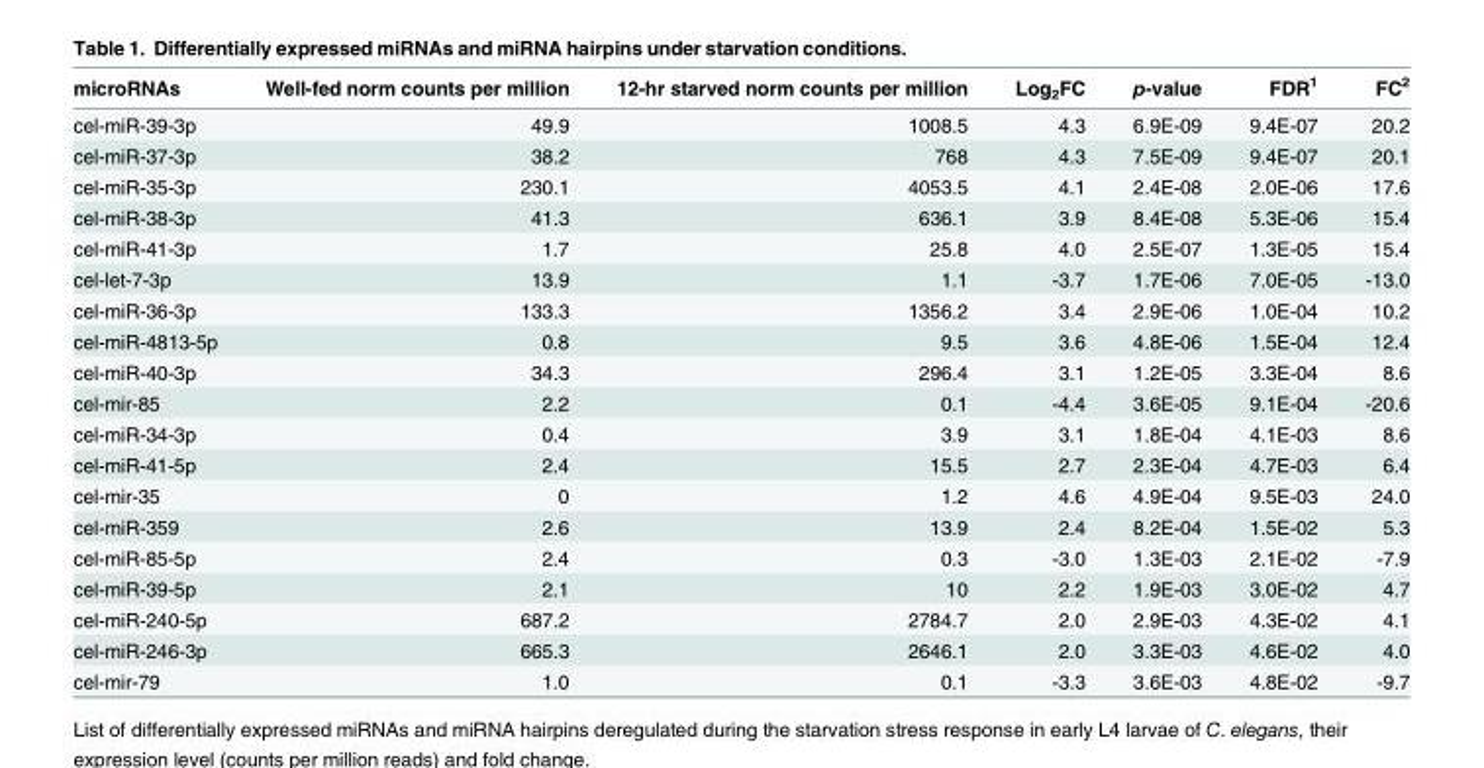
<table><thead><tr><td>microRNAs</td><td>Well-fed norm counts per million</td><td>12-hr starved norm counts per million</td><td>Log<sub>2</sub>FC</td><td>p-value</td><td>FDR<sup>1</sup></td><td>FC<sup>2</sup></td></tr></thead><tbody><tr><td>cel-miR-39-3p</td><td>49.9</td><td>1008.5</td><td>4.3</td><td>6.9E-09</td><td>9.4E-07</td><td>20.2</td></tr><tr><td>cel-miR-37-3p</td><td>38.2</td><td>768</td><td>4.3</td><td>7.5E-09</td><td>9.4E-07</td><td>20.1</td></tr><tr><td>cel-miR-35-3p</td><td>230.1</td><td>4053.5</td><td>4.1</td><td>2.4E-08</td><td>2.0E-06</td><td>17.6</td></tr><tr><td>cel-miR-38-3p</td><td>41.3</td><td>636.1</td><td>3.9</td><td>8.4E-08</td><td>5.3E-06</td><td>15.4</td></tr><tr><td>cel-miR-41-3p</td><td>1.7</td><td>25.8</td><td>4.0</td><td>2.5E-07</td><td>1.3E-05</td><td>15.4</td></tr><tr><td>cel-let-7-3p</td><td>13.9</td><td>1.1</td><td>-3.7</td><td>1.7E-06</td><td>7.0E-05</td><td>-13.0</td></tr><tr><td>cel-miR-36-3p</td><td>133.3</td><td>1356.2</td><td>3.4</td><td>2.9E-06</td><td>1.0E-04</td><td>10.2</td></tr><tr><td>cel-miR-4813-5p</td><td>0.8</td><td>9.5</td><td>3.6</td><td>4.8E-06</td><td>1.5E-04</td><td>12.4</td></tr><tr><td>cel-miR-40-3p</td><td>34.3</td><td>296.4</td><td>3.1</td><td>1.2E-05</td><td>3.3E-04</td><td>8.6</td></tr><tr><td>cel-mir-85</td><td>2.2</td><td>0.1</td><td>-4.4</td><td>3.6E-05</td><td>9.1E-04</td><td>-20.6</td></tr><tr><td>cel-miR-34-3p</td><td>0.4</td><td>3.9</td><td>3.1</td><td>1.8E-04</td><td>4.1E-03</td><td>8.6</td></tr><tr><td>cel-miR-41-5p</td><td>2.4</td><td>15.5</td><td>2.7</td><td>2.3E-04</td><td>4.7E-03</td><td>6.4</td></tr><tr><td>cel-mir-35</td><td>0</td><td>1.2</td><td>4.6</td><td>4.9E-04</td><td>9.5E-03</td><td>24.0</td></tr><tr><td>cel-miR-359</td><td>2.6</td><td>13.9</td><td>2.4</td><td>8.2E-04</td><td>1.5E-02</td><td>5.3</td></tr><tr><td>cel-miR-85-5p</td><td>2.4</td><td>0.3</td><td>-3.0</td><td>1.3E-03</td><td>2.1E-02</td><td>-7.9</td></tr><tr><td>cel-miR-39-5p</td><td>2.1</td><td>10</td><td>2.2</td><td>1.9E-03</td><td>3.0E-02</td><td>4.7</td></tr><tr><td>cel-miR-240-5p</td><td>687.2</td><td>2784.7</td><td>2.0</td><td>2.9E-03</td><td>4.3E-02</td><td>4.1</td></tr><tr><td>cel-miR-246-3p</td><td>665.3</td><td>2646.1</td><td>2.0</td><td>3.3E-03</td><td>4.6E-02</td><td>4.0</td></tr><tr><td>cel-mir-79</td><td>1.0</td><td>0.1</td><td>-3.3</td><td>3.6E-03</td><td>4.8E-02</td><td>-9.7</td></tr></tbody></table>